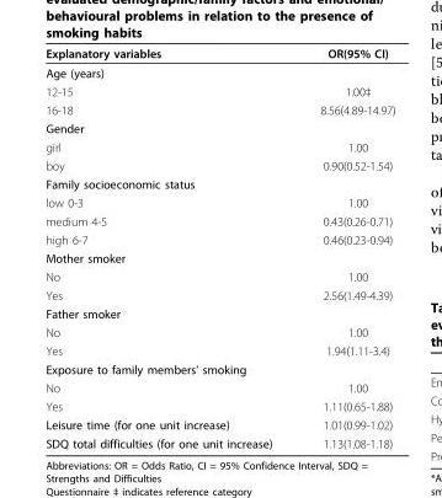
<table><thead><tr><td>Explanatory variables</td><td>OR(95% CI)</td></tr></thead><tbody><tr><td colspan="2">Age (years)</td></tr><tr><td>12-15</td><td>1.00‡</td></tr><tr><td>16-18</td><td>8.56(4.89-14.97)</td></tr><tr><td colspan="2">Gender</td></tr><tr><td>girl</td><td>1.00</td></tr><tr><td>boy</td><td>0.90(0.52-1.54)</td></tr><tr><td colspan="2">Family socioeconomic status</td></tr><tr><td>low 0-3</td><td>1.00</td></tr><tr><td>medium 4-5</td><td>0.43(0.26-0.71)</td></tr><tr><td>high 6-7</td><td>0.46(0.23-0.94)</td></tr><tr><td colspan="2">Mother smoker</td></tr><tr><td>No</td><td>1.00</td></tr><tr><td>Yes</td><td>2.56(1.49-4.39)</td></tr><tr><td colspan="2">Father smoker</td></tr><tr><td>No</td><td>1.00</td></tr><tr><td>Yes</td><td>1.94(1.11-3.4)</td></tr><tr><td colspan="2">Exposure to family members’ smoking</td></tr><tr><td>No</td><td>1.00</td></tr><tr><td>Yes</td><td>1.11(0.65-1.88)</td></tr><tr><td>Leisure time (for one unit increase)</td><td>1.01(0.99-1.02)</td></tr><tr><td>SDQ total difficulties (for one unit increase)</td><td>1.13(1.08-1.18)</td></tr></tbody></table>